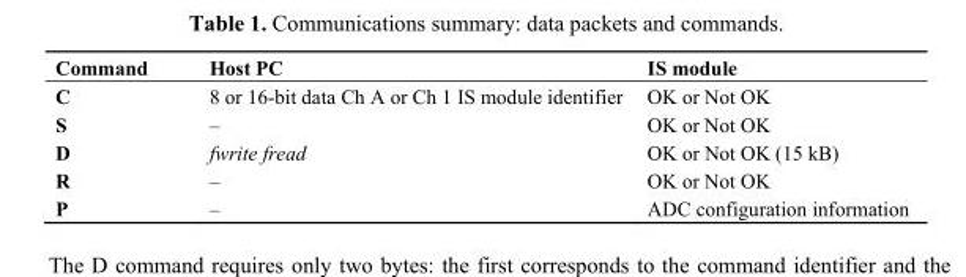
<table><thead><tr><td>Command</td><td>Host PC</td><td>IS module</td></tr></thead><tbody><tr><td>C</td><td>8 or 16-bit data Ch A or Ch 1 IS module identifier</td><td>OK or Not OK</td></tr><tr><td>S</td><td>–</td><td>OK or Not OK</td></tr><tr><td>D</td><td>fwrite fread</td><td>OK or Not OK (15 kB)</td></tr><tr><td>R</td><td>–</td><td>OK or Not OK</td></tr><tr><td>P</td><td>–</td><td>ADC configuration information</td></tr></tbody></table>